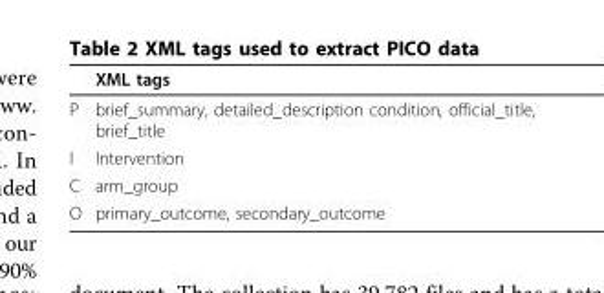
<table><thead><tr><td></td><td>XML tags</td></tr></thead><tbody><tr><td>P</td><td>brief_summary, detailed_description condition, official_title, brief_title</td></tr><tr><td>I</td><td>Intervention</td></tr><tr><td>C</td><td>arm_group</td></tr><tr><td>O</td><td>primary_outcome, secondary_outcome</td></tr></tbody></table>